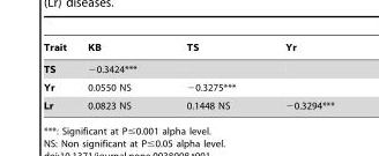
<table><thead><tr><td>Trait</td><td>KB</td><td>TS</td><td>Yr</td></tr></thead><tbody><tr><td>TS</td><td>−0.3424***</td><td></td><td></td></tr><tr><td>Yr</td><td>0.0550 NS</td><td>−0.3275***</td><td></td></tr><tr><td>Lr</td><td>0.0823 NS</td><td>0.1448 NS</td><td>−0.3294***</td></tr></tbody></table>